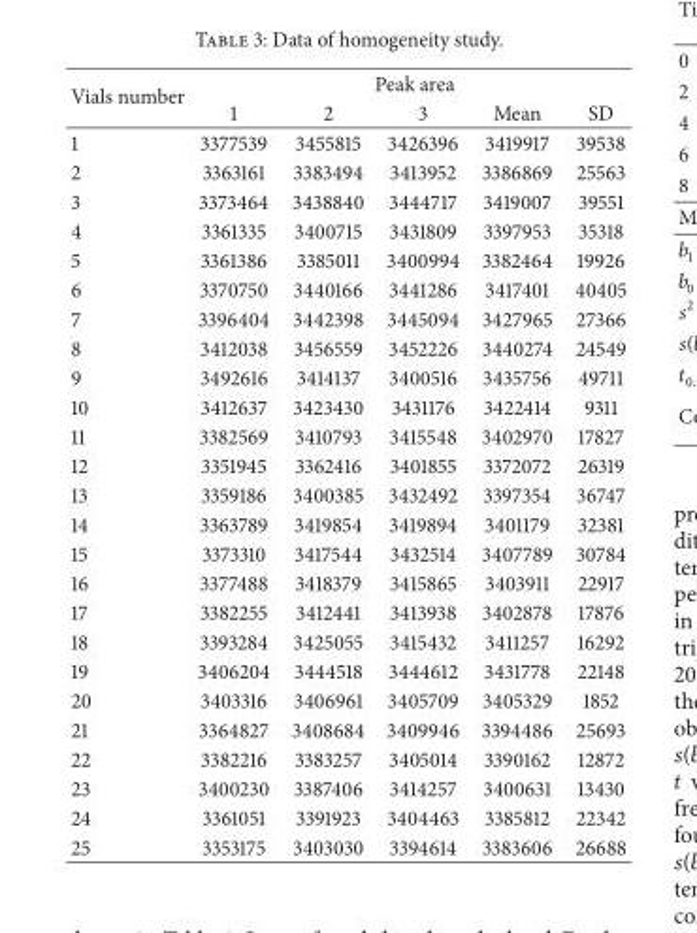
<table><thead><tr><td rowspan="2">Vials number</td><td colspan="5">Peak area</td></tr><tr><td>1</td><td>2</td><td>3</td><td>Mean</td><td>SD</td></tr></thead><tbody><tr><td>1</td><td>3377539</td><td>3455815</td><td>3426396</td><td>3419917</td><td>39538</td></tr><tr><td>2</td><td>3363161</td><td>3383494</td><td>3413952</td><td>3386869</td><td>25563</td></tr><tr><td>3</td><td>3373464</td><td>3438840</td><td>3444717</td><td>3419007</td><td>39551</td></tr><tr><td>4</td><td>3361335</td><td>3400715</td><td>3431809</td><td>3397953</td><td>35318</td></tr><tr><td>5</td><td>3361386</td><td>3385011</td><td>3400994</td><td>3382464</td><td>19926</td></tr><tr><td>6</td><td>3370750</td><td>3440166</td><td>3441286</td><td>3417401</td><td>40405</td></tr><tr><td>7</td><td>3396404</td><td>3442398</td><td>3445094</td><td>3427965</td><td>27366</td></tr><tr><td>8</td><td>3412038</td><td>3456559</td><td>3452226</td><td>3440274</td><td>24549</td></tr><tr><td>9</td><td>3492616</td><td>3414137</td><td>3400516</td><td>3435756</td><td>49711</td></tr><tr><td>10</td><td>3412637</td><td>3423430</td><td>3431176</td><td>3422414</td><td>9311</td></tr><tr><td>11</td><td>3382569</td><td>3410793</td><td>3415548</td><td>3402970</td><td>17827</td></tr><tr><td>12</td><td>3351945</td><td>3362416</td><td>3401855</td><td>3372072</td><td>26319</td></tr><tr><td>13</td><td>3359186</td><td>3400385</td><td>3432492</td><td>3397354</td><td>36747</td></tr><tr><td>14</td><td>3363789</td><td>3419854</td><td>3419894</td><td>3401179</td><td>32381</td></tr><tr><td>15</td><td>3373310</td><td>3417544</td><td>3432514</td><td>3407789</td><td>30784</td></tr><tr><td>16</td><td>3377488</td><td>3418379</td><td>3415865</td><td>3403911</td><td>22917</td></tr><tr><td>17</td><td>3382255</td><td>3412441</td><td>3413938</td><td>3402878</td><td>17876</td></tr><tr><td>18</td><td>3393284</td><td>3425055</td><td>3415432</td><td>3411257</td><td>16292</td></tr><tr><td>19</td><td>3406204</td><td>3444518</td><td>3444612</td><td>3431778</td><td>22148</td></tr><tr><td>20</td><td>3403316</td><td>3406961</td><td>3405709</td><td>3405329</td><td>1852</td></tr><tr><td>21</td><td>3364827</td><td>3408684</td><td>3409946</td><td>3394486</td><td>25693</td></tr><tr><td>22</td><td>3382216</td><td>3383257</td><td>3405014</td><td>3390162</td><td>12872</td></tr><tr><td>23</td><td>3400230</td><td>3387406</td><td>3414257</td><td>3400631</td><td>13430</td></tr><tr><td>24</td><td>3361051</td><td>3391923</td><td>3404463</td><td>3385812</td><td>22342</td></tr><tr><td>25</td><td>3353175</td><td>3403030</td><td>3394614</td><td>3383606</td><td>26688</td></tr></tbody></table>